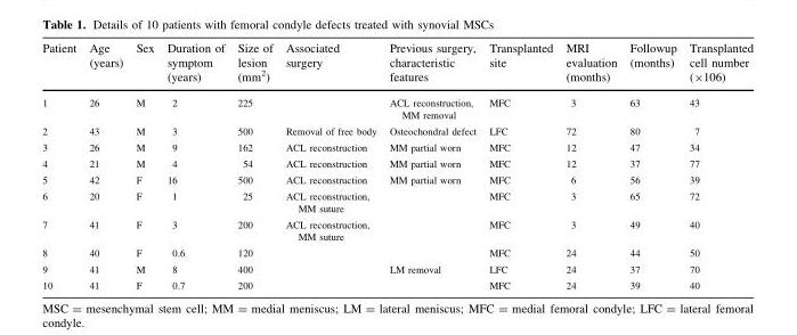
<table><thead><tr><td>Patient</td><td>Age (years)</td><td>Sex</td><td>Duration of symptom (years)</td><td>Size of lesion (mm<sup>2</sup>)</td><td>Associated surgery</td><td>Previous surgery, characteristic features</td><td>Transplanted site</td><td>MRI evaluation (months)</td><td>Followup (months)</td><td>Transplanted cell number (×106)</td></tr></thead><tbody><tr><td>1</td><td>26</td><td>M</td><td>2</td><td>225</td><td></td><td>ACL reconstruction, MM removal</td><td>MFC</td><td>3</td><td>63</td><td>43</td></tr><tr><td>2</td><td>43</td><td>M</td><td>3</td><td>500</td><td>Removal of free body</td><td>Osteochondral defect</td><td>LFC</td><td>72</td><td>80</td><td>7</td></tr><tr><td>3</td><td>26</td><td>M</td><td>9</td><td>162</td><td>ACL reconstruction</td><td>MM partial worn</td><td>MFC</td><td>12</td><td>47</td><td>34</td></tr><tr><td>4</td><td>21</td><td>M</td><td>4</td><td>54</td><td>ACL reconstruction</td><td>MM partial worn</td><td>MFC</td><td>12</td><td>37</td><td>77</td></tr><tr><td>5</td><td>42</td><td>F</td><td>16</td><td>500</td><td>ACL reconstruction</td><td>MM partial worn</td><td>MFC</td><td>6</td><td>56</td><td>39</td></tr><tr><td>6</td><td>20</td><td>F</td><td>1</td><td>25</td><td>ACL reconstruction, MM suture</td><td></td><td>MFC</td><td>3</td><td>65</td><td>72</td></tr><tr><td>7</td><td>41</td><td>F</td><td>3</td><td>200</td><td>ACL reconstruction, MM suture</td><td></td><td>MFC</td><td>3</td><td>49</td><td>40</td></tr><tr><td>8</td><td>40</td><td>F</td><td>0.6</td><td>120</td><td></td><td></td><td>MFC</td><td>24</td><td>44</td><td>50</td></tr><tr><td>9</td><td>41</td><td>M</td><td>8</td><td>400</td><td></td><td>LM removal</td><td>LFC</td><td>24</td><td>37</td><td>70</td></tr><tr><td>10</td><td>41</td><td>F</td><td>0.7</td><td>200</td><td></td><td></td><td>MFC</td><td>24</td><td>39</td><td>40</td></tr></tbody></table>